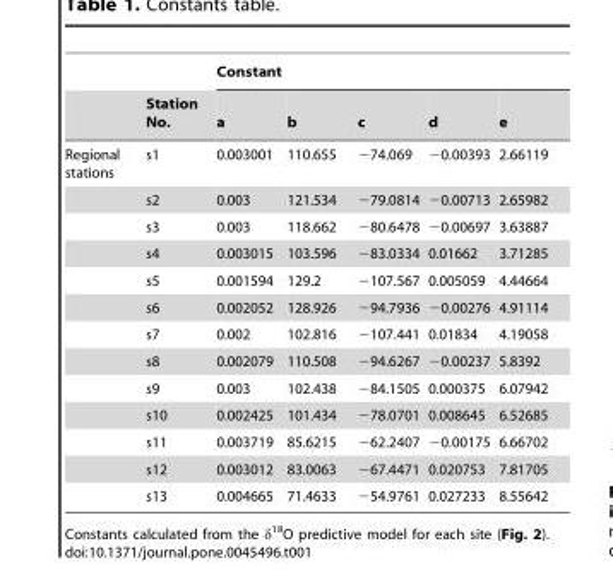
<table><thead><tr><td rowspan="2"></td><td rowspan="2">Station No.</td><td colspan="5">Constant</td></tr><tr><td>a</td><td>b</td><td>c</td><td>d</td><td>e</td></tr></thead><tbody><tr><td rowspan="13">Regional stations</td><td>s1</td><td>0.003001</td><td>110.655</td><td>−74.069</td><td>−0.00393</td><td>2.66119</td></tr><tr><td>s2</td><td>0.003</td><td>121.534</td><td>−79.0814</td><td>−0.00713</td><td>2.65982</td></tr><tr><td>s3</td><td>0.003</td><td>118.662</td><td>−80.6478</td><td>−0.00697</td><td>3.63887</td></tr><tr><td>s4</td><td>0.003015</td><td>103.596</td><td>−83.0334</td><td>0.01662</td><td>3.71285</td></tr><tr><td>s5</td><td>0.001594</td><td>129.2</td><td>−107.567</td><td>0.005059</td><td>4.44664</td></tr><tr><td>s6</td><td>0.002052</td><td>128.926</td><td>−94.7936</td><td>−0.00276</td><td>4.91114</td></tr><tr><td>s7</td><td>0.002</td><td>102.816</td><td>−107.441</td><td>0.01834</td><td>4.19058</td></tr><tr><td>s8</td><td>0.002079</td><td>110.508</td><td>−94.6267</td><td>−0.00237</td><td>5.8392</td></tr><tr><td>s9</td><td>0.003</td><td>102.438</td><td>−84.1505</td><td>0.000375</td><td>6.07942</td></tr><tr><td>s10</td><td>0.002425</td><td>101.434</td><td>−78.0701</td><td>0.008645</td><td>6.52685</td></tr><tr><td>s11</td><td>0.003719</td><td>85.6215</td><td>−62.2407</td><td>−0.00175</td><td>6.66702</td></tr><tr><td>s12</td><td>0.003012</td><td>83.0063</td><td>−67.4471</td><td>0.020753</td><td>7.81705</td></tr><tr><td>s13</td><td>0.004665</td><td>71.4633</td><td>−54.9761</td><td>0.027233</td><td>8.55642</td></tr></tbody></table>